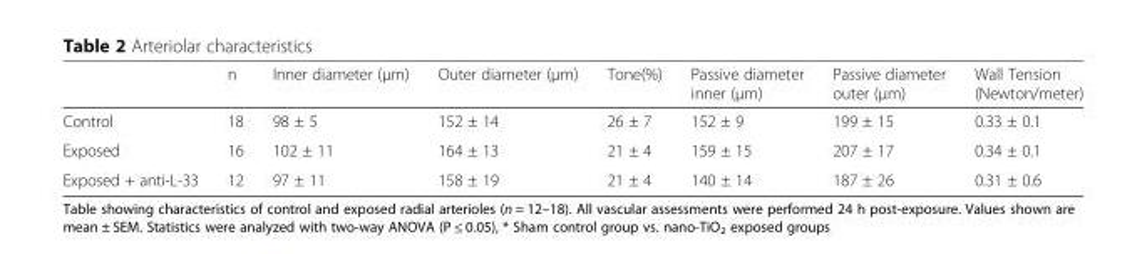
<table><thead><tr><td></td><td>n</td><td>Inner diameter (μm)</td><td>Outer diameter (μm)</td><td>Tone(%)</td><td>Passive diameter inner (μm)</td><td>Passive diameter outer (μm)</td><td>Wall Tension (Newton/meter)</td></tr></thead><tbody><tr><td>Control</td><td>18</td><td>98 ± 5</td><td>152 ± 14</td><td>26 ± 7</td><td>152 ± 9</td><td>199 ± 15</td><td>0.33 ± 0.1</td></tr><tr><td>Exposed</td><td>16</td><td>102 ± 11</td><td>164 ± 13</td><td>21 ± 4</td><td>159 ± 15</td><td>207 ± 17</td><td>0.34 ± 0.1</td></tr><tr><td>Exposed + anti-L-33</td><td>12</td><td>97 ± 11</td><td>158 ± 19</td><td>21 ± 4</td><td>140 ± 14</td><td>187 ± 26</td><td>0.31 ± 0.6</td></tr></tbody></table>